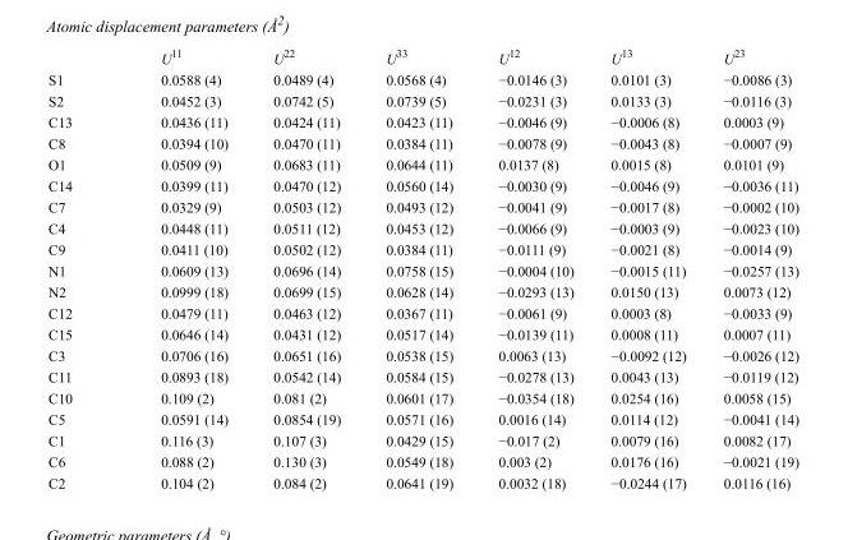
<table><thead><tr><td></td><td>U<sup>11</sup></td><td>U<sup>22</sup></td><td>U<sup>33</sup></td><td>U<sup>12</sup></td><td>U<sup>13</sup></td><td>U<sup>23</sup></td></tr></thead><tbody><tr><td>S1</td><td>0.0588 (4)</td><td>0.0489 (4)</td><td>0.0568 (4)</td><td>−0.0146 (3)</td><td>0.0101 (3)</td><td>−0.0086 (3)</td></tr><tr><td>S2</td><td>0.0452 (3)</td><td>0.0742 (5)</td><td>0.0739 (5)</td><td>−0.0231 (3)</td><td>0.0133 (3)</td><td>−0.0116 (3)</td></tr><tr><td>C13</td><td>0.0436 (11)</td><td>0.0424 (11)</td><td>0.0423 (11)</td><td>−0.0046 (9)</td><td>−0.0006 (8)</td><td>0.0003 (9)</td></tr><tr><td>C8</td><td>0.0394 (10)</td><td>0.0470 (11)</td><td>0.0384 (11)</td><td>−0.0078 (9)</td><td>−0.0043 (8)</td><td>−0.0007 (9)</td></tr><tr><td>O1</td><td>0.0509 (9)</td><td>0.0683 (11)</td><td>0.0644 (11)</td><td>0.0137 (8)</td><td>0.0015 (8)</td><td>0.0101 (9)</td></tr><tr><td>C14</td><td>0.0399 (11)</td><td>0.0470 (12)</td><td>0.0560 (14)</td><td>−0.0030 (9)</td><td>−0.0046 (9)</td><td>−0.0036 (11)</td></tr><tr><td>C7</td><td>0.0329 (9)</td><td>0.0503 (12)</td><td>0.0493 (12)</td><td>−0.0041 (9)</td><td>−0.0017 (8)</td><td>−0.0002 (10)</td></tr><tr><td>C4</td><td>0.0448 (11)</td><td>0.0511 (12)</td><td>0.0453 (12)</td><td>−0.0066 (9)</td><td>−0.0003 (9)</td><td>−0.0023 (10)</td></tr><tr><td>C9</td><td>0.0411 (10)</td><td>0.0502 (12)</td><td>0.0384 (11)</td><td>−0.0111 (9)</td><td>−0.0021 (8)</td><td>−0.0014 (9)</td></tr><tr><td>N1</td><td>0.0609 (13)</td><td>0.0696 (14)</td><td>0.0758 (15)</td><td>−0.0004 (10)</td><td>−0.0015 (11)</td><td>−0.0257 (13)</td></tr><tr><td>N2</td><td>0.0999 (18)</td><td>0.0699 (15)</td><td>0.0628 (14)</td><td>−0.0293 (13)</td><td>0.0150 (13)</td><td>0.0073 (12)</td></tr><tr><td>C12</td><td>0.0479 (11)</td><td>0.0463 (12)</td><td>0.0367 (11)</td><td>−0.0061 (9)</td><td>0.0003 (8)</td><td>−0.0033 (9)</td></tr><tr><td>C15</td><td>0.0646 (14)</td><td>0.0431 (12)</td><td>0.0517 (14)</td><td>−0.0139 (11)</td><td>0.0008 (11)</td><td>0.0007 (11)</td></tr><tr><td>C3</td><td>0.0706 (16)</td><td>0.0651 (16)</td><td>0.0538 (15)</td><td>0.0063 (13)</td><td>−0.0092 (12)</td><td>−0.0026 (12)</td></tr><tr><td>C11</td><td>0.0893 (18)</td><td>0.0542 (14)</td><td>0.0584 (15)</td><td>−0.0278 (13)</td><td>0.0043 (13)</td><td>−0.0119 (12)</td></tr><tr><td>C10</td><td>0.109 (2)</td><td>0.081 (2)</td><td>0.0601 (17)</td><td>−0.0354 (18)</td><td>0.0254 (16)</td><td>0.0058 (15)</td></tr><tr><td>C5</td><td>0.0591 (14)</td><td>0.0854 (19)</td><td>0.0571 (16)</td><td>0.0016 (14)</td><td>0.0114 (12)</td><td>−0.0041 (14)</td></tr><tr><td>C1</td><td>0.116 (3)</td><td>0.107 (3)</td><td>0.0429 (15)</td><td>−0.017 (2)</td><td>0.0079 (16)</td><td>0.0082 (17)</td></tr><tr><td>C6</td><td>0.088 (2)</td><td>0.130 (3)</td><td>0.0549 (18)</td><td>0.003 (2)</td><td>0.0176 (16)</td><td>−0.0021 (19)</td></tr><tr><td>C2</td><td>0.104 (2)</td><td>0.084 (2)</td><td>0.0641 (19)</td><td>0.0032 (18)</td><td>−0.0244 (17)</td><td>0.0116 (16)</td></tr></tbody></table>